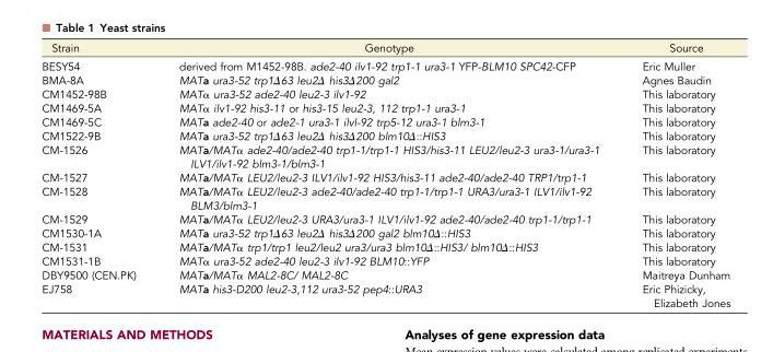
<table><thead><tr><td>Strain</td><td>Genotype</td><td>Source</td></tr></thead><tbody><tr><td>BESY54</td><td>derived from M1452-98B. ade2-40 ilv1-92 trp1-1 ura3-1 YFP-BLM10 SPC42-CFP</td><td>Eric Muller</td></tr><tr><td>BMA-8A</td><td>MATa ura3-52 trp1Δ63 leu2Δ his3Δ200 gal2</td><td>Agnes Baudin</td></tr><tr><td>CM1452-98B</td><td>MATα ura3-52 ade2-40 leu2-3 ilv1-92</td><td>This laboratory</td></tr><tr><td>CM1469-5A</td><td>MATα ilv1-92 his3-11 or his3-15 leu2-3, 112 trp1-1 ura3-1</td><td>This laboratory</td></tr><tr><td>CM1469-5C</td><td>MATa ade2-40 or ade2-1 ura3-1 ilvl-92 trp5-12 ura3-1 blm3-1</td><td>This laboratory</td></tr><tr><td>CM1522-9B</td><td>MATa ura3-52 trp1Δ63 leu2Δ his3Δ200 blm10Δ::HIS3</td><td>This laboratory</td></tr><tr><td>CM-1526</td><td>MATa/MATα ade2-40/ade2-40 trp1-1/trp1-1 HIS3/his3-11 LEU2/leu2-3 ura3-1/ura3-1 ILV1/ilv1-92 blm3-1/blm3-1</td><td>This laboratory</td></tr><tr><td>CM-1527</td><td>MATa/MATα LEU2/leu2-3 ILV1/ilv1-92 HIS3/his3-11 ade2-40/ade2-40 TRP1/trp1-1</td><td>This laboratory</td></tr><tr><td>CM-1528</td><td>MATa/MATα LEU2/leu2-3 ade2-40/ade2-40 trp1-1/trp1-1 URA3/ura3-1 ILV1/ilv1-92 BLM3/blm3-1</td><td>This laboratory</td></tr><tr><td>CM-1529</td><td>MATa/MATα LEU2/leu2-3 URA3/ura3-1 ILV1/ilv1-92 ade2-40/ade2-40 trp1-1/trp1-1</td><td>This laboratory</td></tr><tr><td>CM1530-1A</td><td>MATa ura3-52 trp1Δ63 leu2Δ his3Δ200 gal2 blm10Δ::HIS3</td><td>This laboratory</td></tr><tr><td>CM-1531</td><td>MATa/MATα trp1/trp1 leu2/leu2 ura3/ura3 blm10Δ::HIS3/ blm10Δ::HIS3</td><td>This laboratory</td></tr><tr><td>CM1531-1B</td><td>MATα ura3-52 ade2-40 leu2-3 ilv1-92 BLM10::YFP</td><td>This laboratory</td></tr><tr><td>DBY9500 (CEN.PK)</td><td>MATa/MATα MAL2-8C/ MAL2-8C</td><td>Maitreya Dunham</td></tr><tr><td>EJ758</td><td>MATa his3-D200 leu2-3,112 ura3-52 pep4::URA3</td><td>Eric Phizicky, Elizabeth Jones</td></tr></tbody></table>